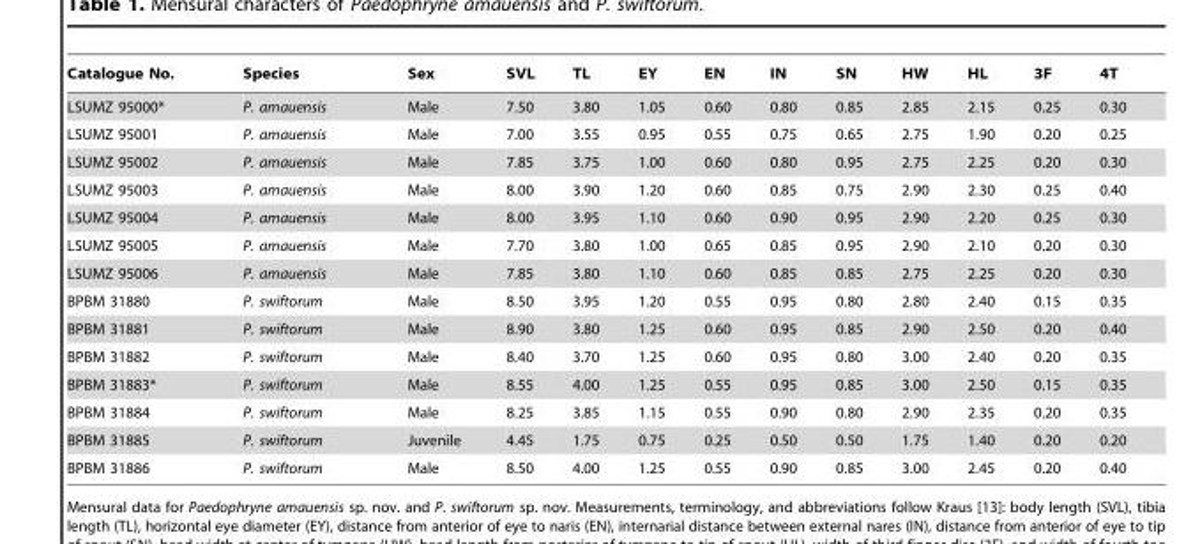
<table><thead><tr><td>Catalogue No.</td><td>Species</td><td>Sex</td><td>SVL</td><td>TL</td><td>EY</td><td>EN</td><td>IN</td><td>SN</td><td>HW</td><td>HL</td><td>3F</td><td>4T</td></tr></thead><tbody><tr><td>LSUMZ 95000*</td><td>P. amauensis</td><td>Male</td><td>7.50</td><td>3.80</td><td>1.05</td><td>0.60</td><td>0.80</td><td>0.85</td><td>2.85</td><td>2.15</td><td>0.25</td><td>0.30</td></tr><tr><td>LSUMZ 95001</td><td>P. amauensis</td><td>Male</td><td>7.00</td><td>3.55</td><td>0.95</td><td>0.55</td><td>0.75</td><td>0.65</td><td>2.75</td><td>1.90</td><td>0.20</td><td>0.25</td></tr><tr><td>LSUMZ 95002</td><td>P. amauensis</td><td>Male</td><td>7.85</td><td>3.75</td><td>1.00</td><td>0.60</td><td>0.80</td><td>0.95</td><td>2.75</td><td>2.25</td><td>0.20</td><td>0.30</td></tr><tr><td>LSUMZ 95003</td><td>P. amauensis</td><td>Male</td><td>8.00</td><td>3.90</td><td>1.20</td><td>0.60</td><td>0.85</td><td>0.75</td><td>2.90</td><td>2.30</td><td>0.25</td><td>0.40</td></tr><tr><td>LSUMZ 95004</td><td>P. amauensis</td><td>Male</td><td>8.00</td><td>3.95</td><td>1.10</td><td>0.60</td><td>0.90</td><td>0.95</td><td>2.90</td><td>2.20</td><td>0.25</td><td>0.30</td></tr><tr><td>LSUMZ 95005</td><td>P. amauensis</td><td>Male</td><td>7.70</td><td>3.80</td><td>1.00</td><td>0.65</td><td>0.85</td><td>0.95</td><td>2.90</td><td>2.10</td><td>0.20</td><td>0.30</td></tr><tr><td>LSUMZ 95006</td><td>P. amauensis</td><td>Male</td><td>7.85</td><td>3.80</td><td>1.10</td><td>0.60</td><td>0.85</td><td>0.85</td><td>2.75</td><td>2.25</td><td>0.20</td><td>0.30</td></tr><tr><td>BPBM 31880</td><td>P. swiftorum</td><td>Male</td><td>8.50</td><td>3.95</td><td>1.20</td><td>0.55</td><td>0.95</td><td>0.80</td><td>2.80</td><td>2.40</td><td>0.15</td><td>0.35</td></tr><tr><td>BPBM 31881</td><td>P. swiftorum</td><td>Male</td><td>8.90</td><td>3.80</td><td>1.25</td><td>0.60</td><td>0.95</td><td>0.85</td><td>2.90</td><td>2.50</td><td>0.20</td><td>0.40</td></tr><tr><td>BPBM 31882</td><td>P. swiftorum</td><td>Male</td><td>8.40</td><td>3.70</td><td>1.25</td><td>0.60</td><td>0.95</td><td>0.80</td><td>3.00</td><td>2.40</td><td>0.20</td><td>0.35</td></tr><tr><td>BPBM 31883*</td><td>P. swiftorum</td><td>Male</td><td>8.55</td><td>4.00</td><td>1.25</td><td>0.55</td><td>0.95</td><td>0.85</td><td>3.00</td><td>2.50</td><td>0.15</td><td>0.35</td></tr><tr><td>BPBM 31884</td><td>P. swiftorum</td><td>Male</td><td>8.25</td><td>3.85</td><td>1.15</td><td>0.55</td><td>0.90</td><td>0.80</td><td>2.90</td><td>2.35</td><td>0.20</td><td>0.35</td></tr><tr><td>BPBM 31885</td><td>P. swiftorum</td><td>Juvenile</td><td>4.45</td><td>1.75</td><td>0.75</td><td>0.25</td><td>0.50</td><td>0.50</td><td>1.75</td><td>1.40</td><td>0.20</td><td>0.20</td></tr><tr><td>BPBM 31886</td><td>P. swiftorum</td><td>Male</td><td>8.50</td><td>4.00</td><td>1.25</td><td>0.55</td><td>0.90</td><td>0.85</td><td>3.00</td><td>2.45</td><td>0.20</td><td>0.40</td></tr></tbody></table>